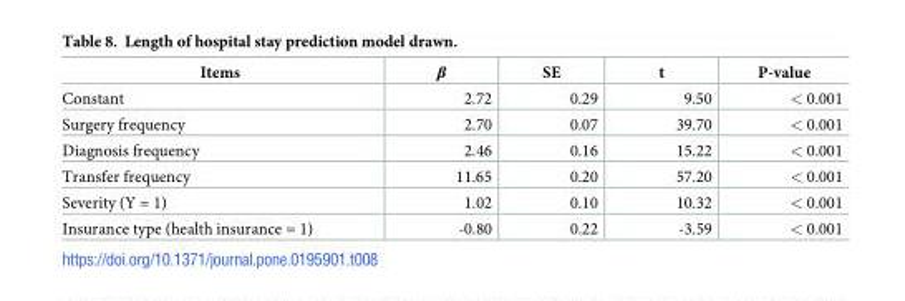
<table><thead><tr><td>Items</td><td>β</td><td>SE</td><td>t</td><td>P-value</td></tr></thead><tbody><tr><td>Constant</td><td>2.72</td><td>0.29</td><td>9.50</td><td>&lt; 0.001</td></tr><tr><td>Surgery frequency</td><td>2.70</td><td>0.07</td><td>39.70</td><td>&lt; 0.001</td></tr><tr><td>Diagnosis frequency</td><td>2.46</td><td>0.16</td><td>15.22</td><td>&lt; 0.001</td></tr><tr><td>Transfer frequency</td><td>11.65</td><td>0.20</td><td>57.20</td><td>&lt; 0.001</td></tr><tr><td>Severity (Y = 1)</td><td>1.02</td><td>0.10</td><td>10.32</td><td>&lt; 0.001</td></tr><tr><td>Insurance type (health insurance = 1)</td><td>-0.80</td><td>0.22</td><td>-3.59</td><td>&lt; 0.001</td></tr></tbody></table>